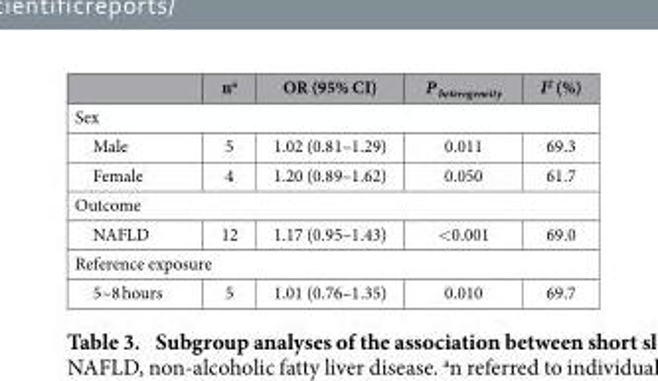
<table><thead><tr><td></td><td>n<sup>a</sup></td><td>OR (95% CI)</td><td>P <sub>heterogeneity</sub></td><td>I<sup>2</sup> (%)</td></tr></thead><tbody><tr><td colspan="5">Sex</td></tr><tr><td>Male</td><td>5</td><td>1.02 (0.81–1.29)</td><td>0.011</td><td>69.3</td></tr><tr><td>Female</td><td>4</td><td>1.20 (0.89–1.62)</td><td>0.050</td><td>61.7</td></tr><tr><td colspan="5">Outcome</td></tr><tr><td>NAFLD</td><td>12</td><td>1.17 (0.95–1.43)</td><td>&lt; 0.001</td><td>69.0</td></tr><tr><td colspan="5">Reference exposure</td></tr><tr><td>5~8 hours</td><td>5</td><td>1.01 (0.76–1.35)</td><td>0.010</td><td>69.7</td></tr></tbody></table>